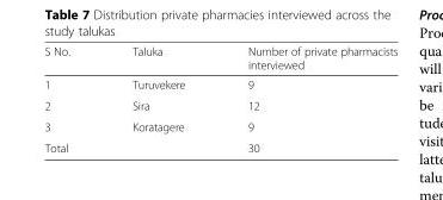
<table><thead><tr><td>S No.</td><td>Taluka</td><td>Number of private pharmacists interviewed</td></tr></thead><tbody><tr><td>1</td><td>Turuvekere</td><td>9</td></tr><tr><td>2</td><td>Sira</td><td>12</td></tr><tr><td>3</td><td>Koratagere</td><td>9</td></tr><tr><td colspan="2">Total</td><td>30</td></tr></tbody></table>